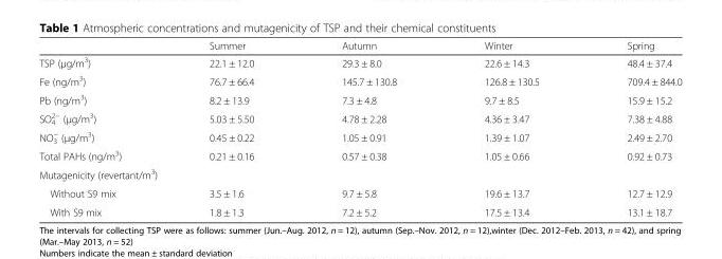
<table><thead><tr><td></td><td>Summer</td><td>Autumn</td><td>Winter</td><td>Spring</td></tr></thead><tbody><tr><td>TSP (μg/m<sup>3</sup>)</td><td>22.1 ± 12.0</td><td>29.3 ± 8.0</td><td>22.6 ± 14.3</td><td>48.4 ± 37.4</td></tr><tr><td>Fe (ng/m<sup>3</sup>)</td><td>76.7 ± 66.4</td><td>145.7 ± 130.8</td><td>126.8 ± 130.5</td><td>709.4 ± 844.0</td></tr><tr><td>Pb (ng/m<sup>3</sup>)</td><td>8.2 ± 13.9</td><td>7.3 ± 4.8</td><td>9.7 ± 8.5</td><td>15.9 ± 15.2</td></tr><tr><td>SO<sub>4</sub> <sup>2−</sup> (μg/m<sup>3</sup>)</td><td>5.03 ± 5.50</td><td>4.78 ± 2.28</td><td>4.36 ± 3.47</td><td>7.38 ± 4.88</td></tr><tr><td>NO<sub>3</sub> <sup>−</sup> (μg/m<sup>3</sup>)</td><td>0.45 ± 0.22</td><td>1.05 ± 0.91</td><td>1.39 ± 1.07</td><td>2.49 ± 2.70</td></tr><tr><td>Total PAHs (ng/m<sup>3</sup>)</td><td>0.21 ± 0.16</td><td>0.57 ± 0.38</td><td>1.05 ± 0.66</td><td>0.92 ± 0.73</td></tr><tr><td colspan="5">Mutagenicity (revertant/m<sup>3</sup>)</td></tr><tr><td>Without S9 mix</td><td>3.5 ± 1.6</td><td>9.7 ± 5.8</td><td>19.6 ± 13.7</td><td>12.7 ± 12.9</td></tr><tr><td>With S9 mix</td><td>1.8 ± 1.3</td><td>7.2 ± 5.2</td><td>17.5 ± 13.4</td><td>13.1 ± 18.7</td></tr></tbody></table>